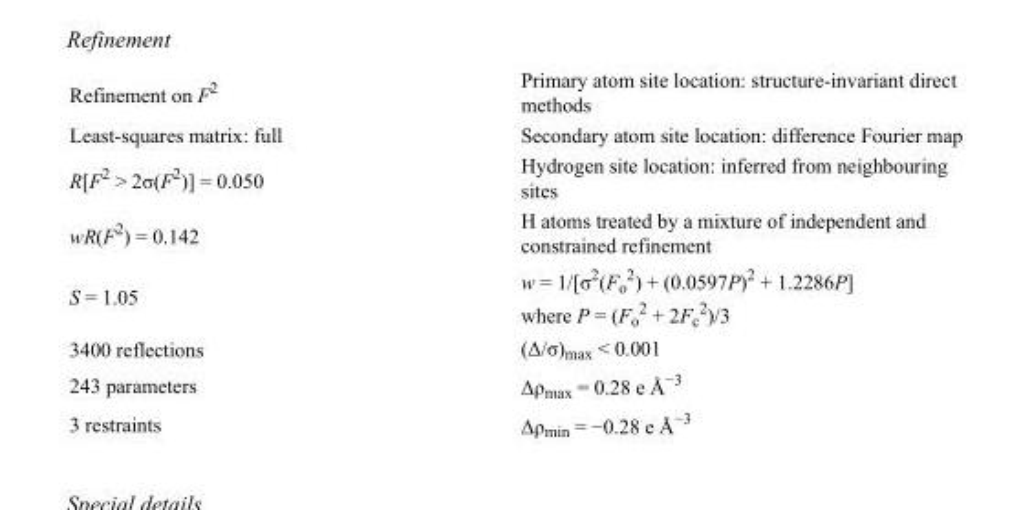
<table><tbody><tr><td>Refinement on F<sup>2</sup></td><td>Primary atom site location: structure-invariant direct methods</td></tr><tr><td>Least-squares matrix: full</td><td>Secondary atom site location: difference Fourier map</td></tr><tr><td>R[F<sup>2</sup> &gt; 2σ(F<sup>2</sup>)] = 0.050</td><td>Hydrogen site location: inferred from neighbouring sites</td></tr><tr><td>wR(F<sup>2</sup>) = 0.142</td><td>H atoms treated by a mixture of independent and constrained refinement</td></tr><tr><td>S = 1.05</td><td>w = 1/[σ<sup>2</sup>(F<sub>o</sub> <sup>2</sup>) + (0.0597P)<sup>2</sup> + 1.2286P] where P = (F<sub>o</sub> <sup>2</sup> + 2F<sub>c</sub> <sup>2</sup>)/3</td></tr><tr><td>3400 reflections</td><td>(Δ/σ)<sub>max</sub> &lt; 0.001</td></tr><tr><td>243 parameters</td><td>Δρ<sub>max</sub> = 0.28 e Å<sup>−3</sup></td></tr><tr><td>3 restraints</td><td>Δρ<sub>min</sub> = −0.28 e Å<sup>−3</sup></td></tr></tbody></table>